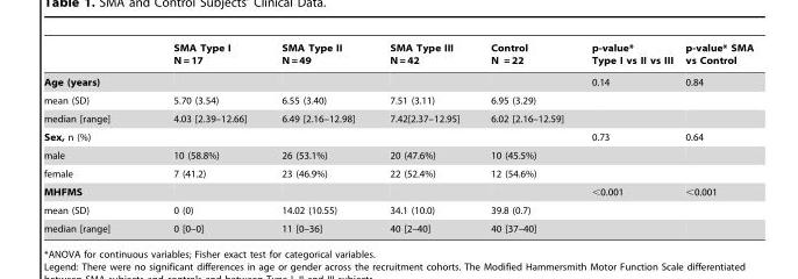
<table><thead><tr><td></td><td>SMA Type I N = 17</td><td>SMA Type II N = 49</td><td>SMA Type III N = 42</td><td>Control N = 22</td><td>p-value* Type I vs II vs III</td><td>p-value* SMA vs Control</td></tr></thead><tbody><tr><td>Age (years)</td><td></td><td></td><td></td><td></td><td>0.14</td><td>0.84</td></tr><tr><td>mean (SD)</td><td>5.70 (3.54)</td><td>6.55 (3.40)</td><td>7.51 (3.11)</td><td>6.95 (3.29)</td><td></td><td></td></tr><tr><td>median [range]</td><td>4.03 [2.39–12.66]</td><td>6.49 [2.16–12.98]</td><td>7.42[2.37–12.95]</td><td>6.02 [2.16–12.59]</td><td></td><td></td></tr><tr><td>Sex, n (%)</td><td></td><td></td><td></td><td></td><td>0.73</td><td>0.64</td></tr><tr><td>male</td><td>10 (58.8%)</td><td>26 (53.1%)</td><td>20 (47.6%)</td><td>10 (45.5%)</td><td></td><td></td></tr><tr><td>female</td><td>7 (41.2)</td><td>23 (46.9%)</td><td>22 (52.4%)</td><td>12 (54.6%)</td><td></td><td></td></tr><tr><td>MHFMS</td><td></td><td></td><td></td><td></td><td>&lt;0.001</td><td>&lt;0.001</td></tr><tr><td>mean (SD)</td><td>0 (0)</td><td>14.02 (10.55)</td><td>34.1 (10.0)</td><td>39.8 (0.7)</td><td></td><td></td></tr><tr><td>median [range]</td><td>0 [0–0]</td><td>11 [0–36]</td><td>40 [2–40]</td><td>40 [37–40]</td><td></td><td></td></tr></tbody></table>